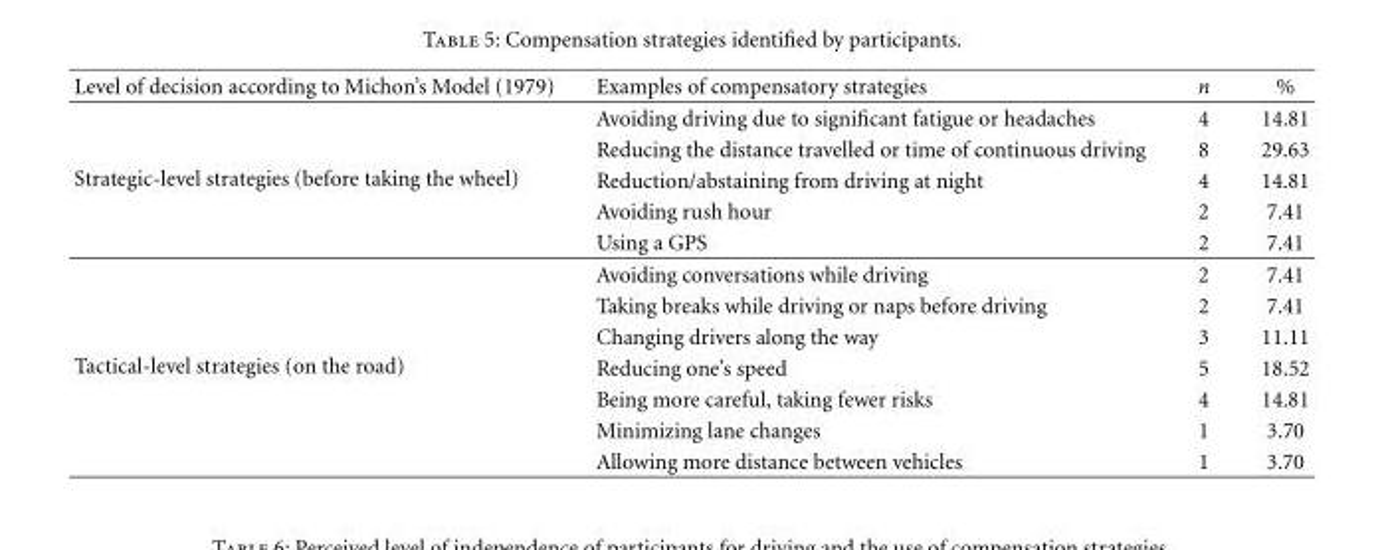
<table><thead><tr><td>Level of decision according to Michon’s Model (1979)</td><td>Examples of compensatory strategies</td><td>n</td><td>%</td></tr></thead><tbody><tr><td rowspan="5">Strategic-level strategies (before taking the wheel)</td><td>Avoiding driving due to significant fatigue or headaches</td><td>4</td><td>14.81</td></tr><tr><td>Reducing the distance travelled or time of continuous driving</td><td>8</td><td>29.63</td></tr><tr><td>Reduction/abstaining from driving at night</td><td>4</td><td>14.81</td></tr><tr><td>Avoiding rush hour</td><td>2</td><td>7.41</td></tr><tr><td>Using a GPS</td><td>2</td><td>7.41</td></tr><tr><td rowspan="7">Tactical-level strategies (on the road)</td><td>Avoiding conversations while driving</td><td>2</td><td>7.41</td></tr><tr><td>Taking breaks while driving or naps before driving</td><td>2</td><td>7.41</td></tr><tr><td>Changing drivers along the way</td><td>3</td><td>11.11</td></tr><tr><td>Reducing one’s speed</td><td>5</td><td>18.52</td></tr><tr><td>Being more careful, taking fewer risks</td><td>4</td><td>14.81</td></tr><tr><td>Minimizing lane changes</td><td>1</td><td>3.70</td></tr><tr><td>Allowing more distance between vehicles</td><td>1</td><td>3.70</td></tr></tbody></table>